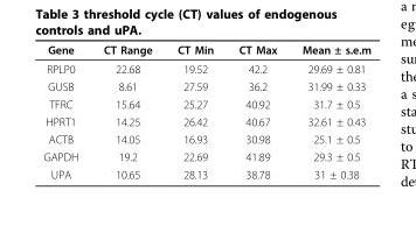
<table><thead><tr><td>Gene</td><td>CT Range</td><td>CT Min</td><td>CT Max</td><td>Mean ± s.e.m</td></tr></thead><tbody><tr><td>RPLP0</td><td>22.68</td><td>19.52</td><td>42.2</td><td>29.69 ± 0.81</td></tr><tr><td>GUSB</td><td>8.61</td><td>27.59</td><td>36.2</td><td>31.99 ± 0.33</td></tr><tr><td>TFRC</td><td>15.64</td><td>25.27</td><td>40.92</td><td>31.7 ± 0.5</td></tr><tr><td>HPRT1</td><td>14.25</td><td>26.42</td><td>40.67</td><td>32.61 ± 0.43</td></tr><tr><td>ACTB</td><td>14.05</td><td>16.93</td><td>30.98</td><td>25.1 ± 0.5</td></tr><tr><td>GAPDH</td><td>19.2</td><td>22.69</td><td>41.89</td><td>29.3 ± 0.5</td></tr><tr><td>UPA</td><td>10.65</td><td>28.13</td><td>38.78</td><td>31 ± 0.38</td></tr></tbody></table>